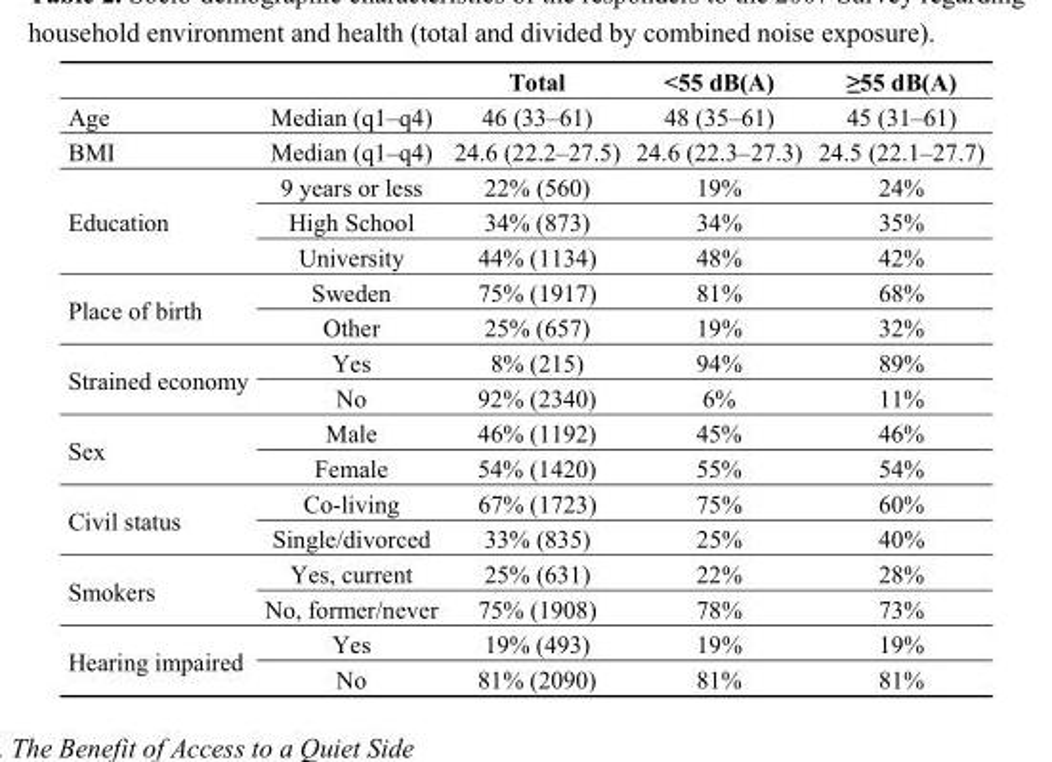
<table><thead><tr><td></td><td></td><td>Total</td><td>&lt;55 dB(A)</td><td>≥55 dB(A)</td></tr></thead><tbody><tr><td>Age</td><td>Median (q1–q4)</td><td>46 (33–61)</td><td>48 (35–61)</td><td>45 (31–61)</td></tr><tr><td>BMI</td><td>Median (q1–q4)</td><td>24.6 (22.2–27.5)</td><td>24.6 (22.3–27.3)</td><td>24.5 (22.1–27.7)</td></tr><tr><td rowspan="3">Education</td><td>9 years or less</td><td>22% (560)</td><td>19%</td><td>24%</td></tr><tr><td>High School</td><td>34% (873)</td><td>34%</td><td>35%</td></tr><tr><td>University</td><td>44% (1134)</td><td>48%</td><td>42%</td></tr><tr><td rowspan="2">Place of birth</td><td>Sweden</td><td>75% (1917)</td><td>81%</td><td>68%</td></tr><tr><td>Other</td><td>25% (657)</td><td>19%</td><td>32%</td></tr><tr><td rowspan="2">Strained economy</td><td>Yes</td><td>8% (215)</td><td>94%</td><td>89%</td></tr><tr><td>No</td><td>92% (2340)</td><td>6%</td><td>11%</td></tr><tr><td rowspan="2">Sex</td><td>Male</td><td>46% (1192)</td><td>45%</td><td>46%</td></tr><tr><td>Female</td><td>54% (1420)</td><td>55%</td><td>54%</td></tr><tr><td rowspan="2">Civil status</td><td>Co-living</td><td>67% (1723)</td><td>75%</td><td>60%</td></tr><tr><td>Single/divorced</td><td>33% (835)</td><td>25%</td><td>40%</td></tr><tr><td rowspan="2">Smokers</td><td>Yes, current</td><td>25% (631)</td><td>22%</td><td>28%</td></tr><tr><td>No, former/never</td><td>75% (1908)</td><td>78%</td><td>73%</td></tr><tr><td rowspan="2">Hearing impaired</td><td>Yes</td><td>19% (493)</td><td>19%</td><td>19%</td></tr><tr><td>No</td><td>81% (2090)</td><td>81%</td><td>81%</td></tr></tbody></table>